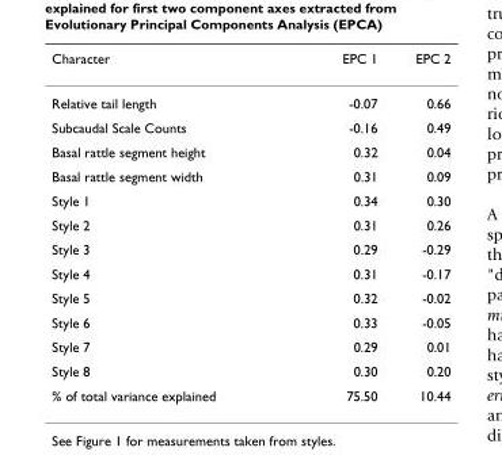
<table><thead><tr><td>Character</td><td>EPC 1</td><td>EPC 2</td></tr></thead><tbody><tr><td>Relative tail length</td><td>-0.07</td><td>0.66</td></tr><tr><td>Subcaudal Scale Counts</td><td>-0.16</td><td>0.49</td></tr><tr><td>Basal rattle segment height</td><td>0.32</td><td>0.04</td></tr><tr><td>Basal rattle segment width</td><td>0.31</td><td>0.09</td></tr><tr><td>Style 1</td><td>0.34</td><td>0.30</td></tr><tr><td>Style 2</td><td>0.31</td><td>0.26</td></tr><tr><td>Style 3</td><td>0.29</td><td>-0.29</td></tr><tr><td>Style 4</td><td>0.31</td><td>-0.17</td></tr><tr><td>Style 5</td><td>0.32</td><td>-0.02</td></tr><tr><td>Style 6</td><td>0.33</td><td>-0.05</td></tr><tr><td>Style 7</td><td>0.29</td><td>0.01</td></tr><tr><td>Style 8</td><td>0.30</td><td>0.20</td></tr><tr><td>% of total variance explained</td><td>75.50</td><td>10.44</td></tr></tbody></table>